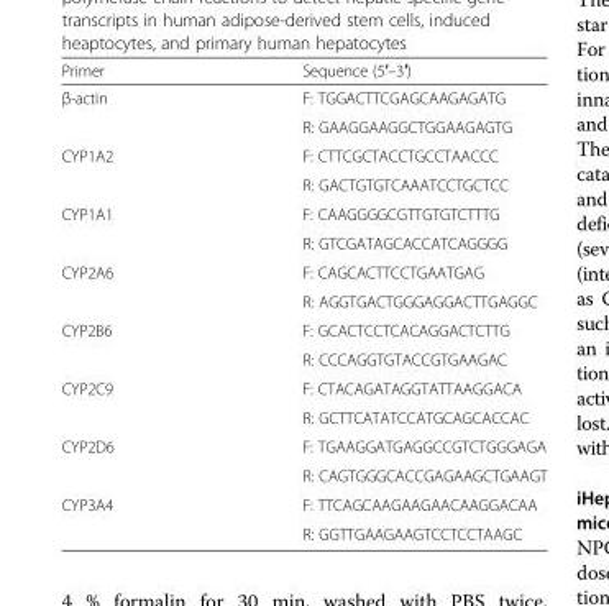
<table><thead><tr><td>Primer</td><td>Sequence (5′–3′)</td></tr></thead><tbody><tr><td rowspan="2">β-actin</td><td>F: TGGACTTCGAGCAAGAGATG</td></tr><tr><td>R: GAAGGAAGGCTGGAAGAGTG</td></tr><tr><td rowspan="2">CYP1A2</td><td>F: CTTCGCTACCTGCCTAACCC</td></tr><tr><td>R: GACTGTGTCAAATCCTGCTCC</td></tr><tr><td rowspan="2">CYP1A1</td><td>F: CAAGGGGCGTTGTGTCTTTG</td></tr><tr><td>R: GTCGATAGCACCATCAGGGG</td></tr><tr><td rowspan="2">CYP2A6</td><td>F: CAGCACTTCCTGAATGAG</td></tr><tr><td>R: AGGTGACTGGGAGGACTTGAGGC</td></tr><tr><td rowspan="2">CYP2B6</td><td>F: GCACTCCTCACAGGACTCTTG</td></tr><tr><td>R: CCCAGGTGTACCGTGAAGAC</td></tr><tr><td rowspan="2">CYP2C9</td><td>F: CTACAGATAGGTATTAAGGACA</td></tr><tr><td>R: GCTTCATATCCATGCAGCACCAC</td></tr><tr><td rowspan="2">CYP2D6</td><td>F: TGAAGGATGAGGCCGTCTGGGAGA</td></tr><tr><td>R: CAGTGGGCACCGAGAAGCTGAAGT</td></tr><tr><td rowspan="2">CYP3A4</td><td>F: TTCAGCAAGAAGAACAAGGACAA</td></tr><tr><td>R: GGTTGAAGAAGTCCTCCTAAGC</td></tr></tbody></table>